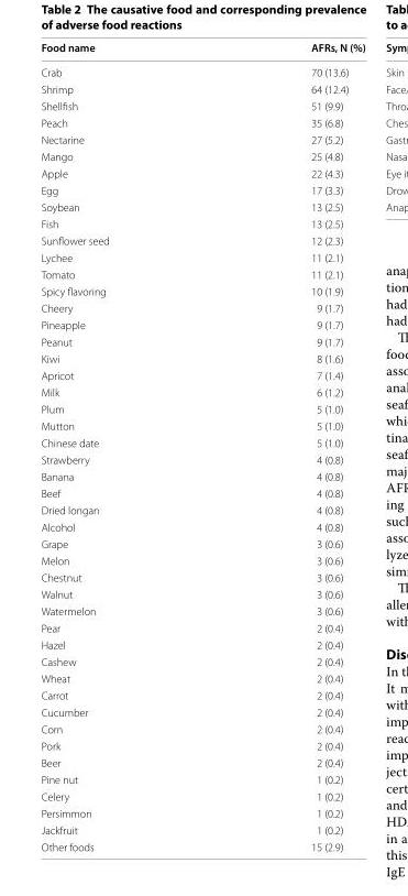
<table><thead><tr><td>Food name</td><td>AFRs, N (%)</td></tr></thead><tbody><tr><td>Crab</td><td>70 (13.6)</td></tr><tr><td>Shrimp</td><td>64 (12.4)</td></tr><tr><td>Shellfish</td><td>51 (9.9)</td></tr><tr><td>Peach</td><td>35 (6.8)</td></tr><tr><td>Nectarine</td><td>27 (5.2)</td></tr><tr><td>Mango</td><td>25 (4.8)</td></tr><tr><td>Apple</td><td>22 (4.3)</td></tr><tr><td>Egg</td><td>17 (3.3)</td></tr><tr><td>Soybean</td><td>13 (2.5)</td></tr><tr><td>Fish</td><td>13 (2.5)</td></tr><tr><td>Sunflower seed</td><td>12 (2.3)</td></tr><tr><td>Lychee</td><td>11 (2.1)</td></tr><tr><td>Tomato</td><td>11 (2.1)</td></tr><tr><td>Spicy flavoring</td><td>10 (1.9)</td></tr><tr><td>Cheery</td><td>9 (1.7)</td></tr><tr><td>Pineapple</td><td>9 (1.7)</td></tr><tr><td>Peanut</td><td>9 (1.7)</td></tr><tr><td>Kiwi</td><td>8 (1.6)</td></tr><tr><td>Apricot</td><td>7 (1.4)</td></tr><tr><td>Milk</td><td>6 (1.2)</td></tr><tr><td>Plum</td><td>5 (1.0)</td></tr><tr><td>Mutton</td><td>5 (1.0)</td></tr><tr><td>Chinese date</td><td>5 (1.0)</td></tr><tr><td>Strawberry</td><td>4 (0.8)</td></tr><tr><td>Banana</td><td>4 (0.8)</td></tr><tr><td>Beef</td><td>4 (0.8)</td></tr><tr><td>Dried longan</td><td>4 (0.8)</td></tr><tr><td>Alcohol</td><td>4 (0.8)</td></tr><tr><td>Grape</td><td>3 (0.6)</td></tr><tr><td>Melon</td><td>3 (0.6)</td></tr><tr><td>Chestnut</td><td>3 (0.6)</td></tr><tr><td>Walnut</td><td>3 (0.6)</td></tr><tr><td>Watermelon</td><td>3 (0.6)</td></tr><tr><td>Pear</td><td>2 (0.4)</td></tr><tr><td>Hazel</td><td>2 (0.4)</td></tr><tr><td>Cashew</td><td>2 (0.4)</td></tr><tr><td>Wheat</td><td>2 (0.4)</td></tr><tr><td>Carrot</td><td>2 (0.4)</td></tr><tr><td>Cucumber</td><td>2 (0.4)</td></tr><tr><td>Corn</td><td>2 (0.4)</td></tr><tr><td>Pork</td><td>2 (0.4)</td></tr><tr><td>Beer</td><td>2 (0.4)</td></tr><tr><td>Pine nut</td><td>1 (0.2)</td></tr><tr><td>Celery</td><td>1 (0.2)</td></tr><tr><td>Persimmon</td><td>1 (0.2)</td></tr><tr><td>Jackfruit</td><td>1 (0.2)</td></tr><tr><td>Other foods</td><td>15 (2.9)</td></tr></tbody></table>